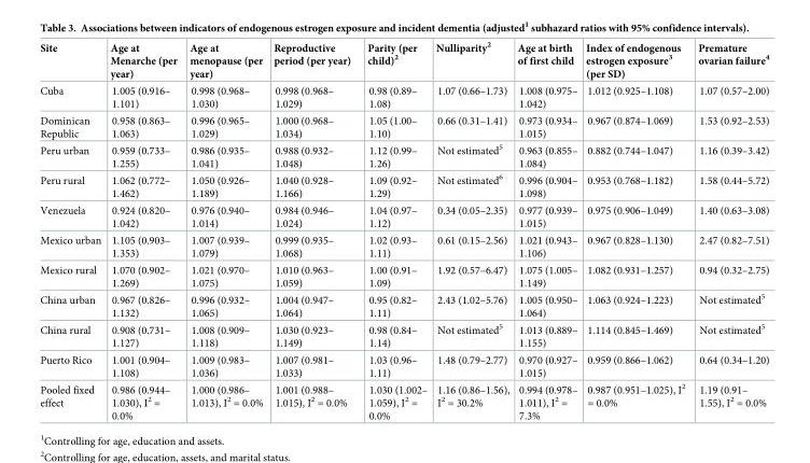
<table><thead><tr><td>Site</td><td>Age at Menarche (per year)</td><td>Age at menopause (per year)</td><td>Reproductive period (per year)</td><td>Parity (per child)<sup>2</sup></td><td>Nulliparity<sup>2</sup></td><td>Age at birth of first child</td><td>Index of endogenous estrogen exposure<sup>3</sup> (per SD)</td><td>Premature ovarian failure<sup>4</sup></td></tr></thead><tbody><tr><td>Cuba</td><td>1.005 (0.916– 1.101)</td><td>0.998 (0.968– 1.030)</td><td>0.998 (0.968– 1.029)</td><td>0.98 (0.89– 1.08)</td><td>1.07 (0.66–1.73)</td><td>1.008 (0.975– 1.042)</td><td>1.012 (0.925–1.108)</td><td>1.07 (0.57–2.00)</td></tr><tr><td>Dominican Republic</td><td>0.958 (0.863– 1.063)</td><td>0.996 (0.965– 1.029)</td><td>1.000 (0.968– 1.034)</td><td>1.05 (1.00– 1.10)</td><td>0.66 (0.31–1.41)</td><td>0.973 (0.934– 1.015)</td><td>0.967 (0.874–1.069)</td><td>1.53 (0.92–2.53)</td></tr><tr><td>Peru urban</td><td>0.959 (0.733– 1.255)</td><td>0.986 (0.935– 1.041)</td><td>0.988 (0.932– 1.048)</td><td>1.12 (0.99– 1.26)</td><td>Not estimated<sup>5</sup></td><td>0.963 (0.855– 1.084)</td><td>0.882 (0.744–1.047)</td><td>1.16 (0.39–3.42)</td></tr><tr><td>Peru rural</td><td>1.062 (0.772– 1.462)</td><td>1.050 (0.926– 1.189)</td><td>1.040 (0.928– 1.166)</td><td>1.09 (0.92– 1.29)</td><td>Not estimated<sup>6</sup></td><td>0.996 (0.904– 1.098)</td><td>0.953 (0.768–1.182)</td><td>1.58 (0.44–5.72)</td></tr><tr><td>Venezuela</td><td>0.924 (0.820– 1.042)</td><td>0.976 (0.940– 1.014)</td><td>0.984 (0.946– 1.024)</td><td>1.04 (0.97– 1.12)</td><td>0.34 (0.05–2.35)</td><td>0.977 (0.939– 1.015)</td><td>0.975 (0.906–1.049)</td><td>1.40 (0.63–3.08)</td></tr><tr><td>Mexico urban</td><td>1.105 (0.903– 1.353)</td><td>1.007 (0.939– 1.079)</td><td>0.999 (0.935– 1.068)</td><td>1.02 (0.93– 1.11)</td><td>0.61 (0.15–2.56)</td><td>1.021 (0.943– 1.106)</td><td>0.967 (0.828–1.130)</td><td>2.47 (0.82–7.51)</td></tr><tr><td>Mexico rural</td><td>1.070 (0.902– 1.269)</td><td>1.021 (0.970– 1.075)</td><td>1.010 (0.963– 1.059)</td><td>1.00 (0.91– 1.09)</td><td>1.92 (0.57–6.47)</td><td>1.075 (1.005– 1.149)</td><td>1.082 (0.931–1.257)</td><td>0.94 (0.32–2.75)</td></tr><tr><td>China urban</td><td>0.967 (0.826– 1.132)</td><td>0.996 (0.932– 1.065)</td><td>1.004 (0.947– 1.064)</td><td>0.95 (0.82– 1.11)</td><td>2.43 (1.02–5.76)</td><td>1.005 (0.950– 1.064)</td><td>1.063 (0.924–1.223)</td><td>Not estimated<sup>5</sup></td></tr><tr><td>China rural</td><td>0.908 (0.731– 1.127)</td><td>1.008 (0.909– 1.118)</td><td>1.030 (0.923– 1.149)</td><td>0.98 (0.84– 1.14)</td><td>Not estimated<sup>5</sup></td><td>1.013 (0.889– 1.155)</td><td>1.114 (0.845–1.469)</td><td>Not estimated<sup>5</sup></td></tr><tr><td>Puerto Rico</td><td>1.001 (0.904– 1.108)</td><td>1.009 (0.983– 1.036)</td><td>1.007 (0.981– 1.033)</td><td>1.03 (0.96– 1.11)</td><td>1.48 (0.79–2.77)</td><td>0.970 (0.927– 1.015)</td><td>0.959 (0.866–1.062)</td><td>0.64 (0.34–1.20)</td></tr><tr><td>Pooled fixed effect</td><td>0.986 (0.944– 1.030), I<sup>2</sup> = 0.0%</td><td>1.000 (0.986– 1.013), I<sup>2</sup> = 0.0%</td><td>1.001 (0.988– 1.015), I<sup>2</sup> = 0.0%</td><td>1.030 (1.002– 1.059), I<sup>2</sup> = 0.0%</td><td>1.16 (0.86–1.56), I<sup>2</sup> = 30.2%</td><td>0.994 (0.978– 1.011), I<sup>2</sup> = 7.3%</td><td>0.987 (0.951–1.025), I<sup>2</sup> = 0.0%</td><td>1.19 (0.91– 1.55), I<sup>2</sup> = 0.0%</td></tr></tbody></table>